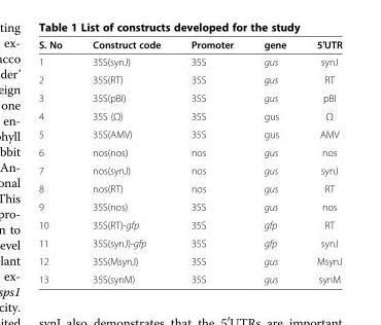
<table><thead><tr><td>S. No</td><td>Construct code</td><td>Promoter</td><td>gene</td><td>5′UTR</td></tr></thead><tbody><tr><td>1</td><td>35S(synJ)</td><td>35S</td><td>gus</td><td>synJ</td></tr><tr><td>2</td><td>35S(RT)</td><td>35S</td><td>gus</td><td>RT</td></tr><tr><td>3</td><td>35S(pBI)</td><td>35S</td><td>gus</td><td>pBI</td></tr><tr><td>4</td><td>35S (Ω)</td><td>35S</td><td>gus</td><td>Ω</td></tr><tr><td>5</td><td>35S(AMV)</td><td>35S</td><td>gus</td><td>AMV</td></tr><tr><td>6</td><td>nos(nos)</td><td>nos</td><td>gus</td><td>nos</td></tr><tr><td>7</td><td>nos(synJ)</td><td>nos</td><td>gus</td><td>synJ</td></tr><tr><td>8</td><td>nos(RT)</td><td>nos</td><td>gus</td><td>RT</td></tr><tr><td>9</td><td>35S(nos)</td><td>35S</td><td>gus</td><td>nos</td></tr><tr><td>10</td><td>35S(RT)-gfp</td><td>35S</td><td>gfp</td><td>RT</td></tr><tr><td>11</td><td>35S(synJ)-gfp</td><td>35S</td><td>gfp</td><td>synJ</td></tr><tr><td>12</td><td>35S(MsynJ)</td><td>35S</td><td>gus</td><td>MsynJ</td></tr><tr><td>13</td><td>35S(synM)</td><td>35S</td><td>gus</td><td>synM</td></tr></tbody></table>